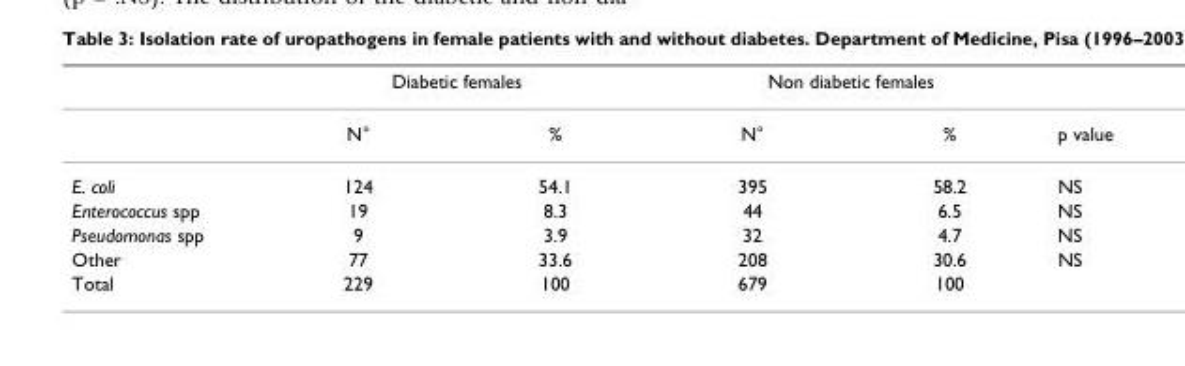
<table><thead><tr><td rowspan="2"></td><td colspan="2">Diabetic females</td><td colspan="2">Non diabetic females</td><td rowspan="2">p value</td></tr><tr><td>N°</td><td>%</td><td>N°</td><td>%</td></tr></thead><tbody><tr><td>E. coli</td><td>124</td><td>54.1</td><td>395</td><td>58.2</td><td>NS</td></tr><tr><td>Enterococcus spp</td><td>19</td><td>8.3</td><td>44</td><td>6.5</td><td>NS</td></tr><tr><td>Pseudomonas spp</td><td>9</td><td>3.9</td><td>32</td><td>4.7</td><td>NS</td></tr><tr><td>Other</td><td>77</td><td>33.6</td><td>208</td><td>30.6</td><td>NS</td></tr><tr><td>Total</td><td>229</td><td>100</td><td>679</td><td>100</td><td></td></tr></tbody></table>